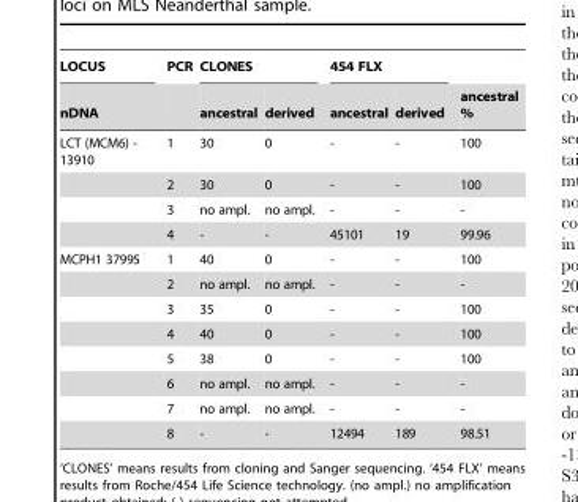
<table><thead><tr><td rowspan="2">LOCUS nDNA</td><td rowspan="2">PCR</td><td colspan="2">CLONES</td><td colspan="2">454 FLX</td><td rowspan="2">ancestral %</td></tr><tr><td>ancestral</td><td>derived</td><td>ancestral</td><td>derived</td></tr></thead><tbody><tr><td rowspan="4">LCT (MCM6) - 13910</td><td>1</td><td>30</td><td>0</td><td>-</td><td>-</td><td>100</td></tr><tr><td>2</td><td>30</td><td>0</td><td>-</td><td>-</td><td>100</td></tr><tr><td>3</td><td>no ampl.</td><td>no ampl.</td><td>-</td><td>-</td><td>-</td></tr><tr><td>4</td><td>-</td><td>-</td><td>45101</td><td>19</td><td>99.96</td></tr><tr><td rowspan="8">MCPH1 37995</td><td>1</td><td>40</td><td>0</td><td>-</td><td>-</td><td>100</td></tr><tr><td>2</td><td>no ampl.</td><td>no ampl.</td><td>-</td><td>-</td><td>-</td></tr><tr><td>3</td><td>35</td><td>0</td><td>-</td><td>-</td><td>100</td></tr><tr><td>4</td><td>40</td><td>0</td><td>-</td><td>-</td><td>100</td></tr><tr><td>5</td><td>38</td><td>0</td><td>-</td><td>-</td><td>100</td></tr><tr><td>6</td><td>no ampl.</td><td>no ampl.</td><td>-</td><td>-</td><td>-</td></tr><tr><td>7</td><td>no ampl.</td><td>no ampl.</td><td>-</td><td>-</td><td>-</td></tr><tr><td>8</td><td>-</td><td>-</td><td>12494</td><td>189</td><td>98.51</td></tr></tbody></table>